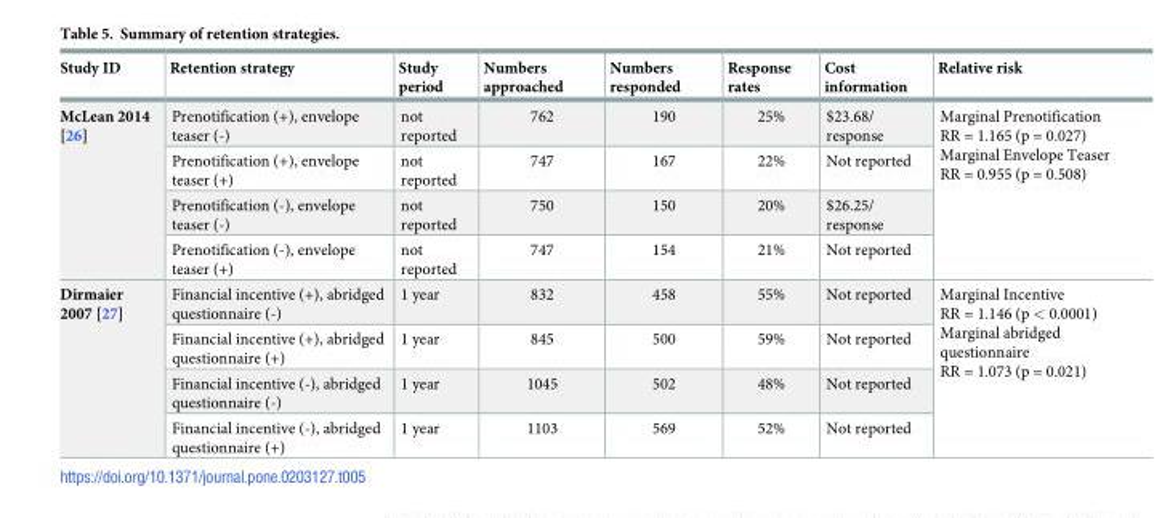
<table><thead><tr><td>Study ID</td><td>Retention strategy</td><td>Study period</td><td>Numbers approached</td><td>Numbers responded</td><td>Response rates</td><td>Cost information</td><td>Relative risk</td></tr></thead><tbody><tr><td rowspan="4">McLean 2014 [26]</td><td>Prenotification (+), envelope teaser (-)</td><td>not reported</td><td>762</td><td>190</td><td>25%</td><td>$23.68/ response</td><td rowspan="4">Marginal Prenotification RR = 1.165 (p = 0.027) Marginal Envelope Teaser RR = 0.955 (p = 0.508)</td></tr><tr><td>Prenotification (+), envelope teaser (+)</td><td>not reported</td><td>747</td><td>167</td><td>22%</td><td>Not reported</td></tr><tr><td>Prenotification (-), envelope teaser (-)</td><td>not reported</td><td>750</td><td>150</td><td>20%</td><td>$26.25/ response</td></tr><tr><td>Prenotification (-), envelope teaser (+)</td><td>not reported</td><td>747</td><td>154</td><td>21%</td><td>Not reported</td></tr><tr><td rowspan="4">Dirmaier 2007 [27]</td><td>Financial incentive (+), abridged questionnaire (-)</td><td>1 year</td><td>832</td><td>458</td><td>55%</td><td>Not reported</td><td rowspan="4">Marginal Incentive RR = 1.146 (p &lt; 0.0001) Marginal abridged questionnaire RR = 1.073 (p = 0.021)</td></tr><tr><td>Financial incentive (+), abridged questionnaire (+)</td><td>1 year</td><td>845</td><td>500</td><td>59%</td><td>Not reported</td></tr><tr><td>Financial incentive (-), abridged questionnaire (-)</td><td>1 year</td><td>1045</td><td>502</td><td>48%</td><td>Not reported</td></tr><tr><td>Financial incentive (-), abridged questionnaire (+)</td><td>1 year</td><td>1103</td><td>569</td><td>52%</td><td>Not reported</td></tr></tbody></table>